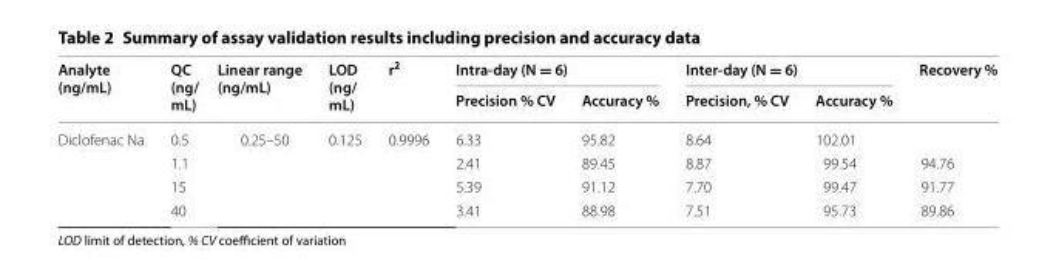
<table><thead><tr><td rowspan="2">Analyte (ng/mL)</td><td rowspan="2">QC (ng/ mL)</td><td rowspan="2">Linear range (ng/mL)</td><td rowspan="2">LOD (ng/ mL)</td><td rowspan="2">r<sup>2</sup></td><td colspan="2">Intra-day (N = 6)</td><td colspan="2">Inter-day (N = 6)</td><td rowspan="2">Recovery %</td></tr><tr><td>Precision % CV</td><td>Accuracy %</td><td>Precision, % CV</td><td>Accuracy %</td></tr></thead><tbody><tr><td rowspan="4">Diclofenac Na</td><td>0.5</td><td rowspan="4">0.25–50</td><td rowspan="4">0.125</td><td rowspan="4">0.9996</td><td>6.33</td><td>95.82</td><td>8.64</td><td>102.01</td><td></td></tr><tr><td>1.1</td><td>2.41</td><td>89.45</td><td>8.87</td><td>99.54</td><td>94.76</td></tr><tr><td>15</td><td>5.39</td><td>91.12</td><td>7.70</td><td>99.47</td><td>91.77</td></tr><tr><td>40</td><td>3.41</td><td>88.98</td><td>7.51</td><td>95.73</td><td>89.86</td></tr></tbody></table>